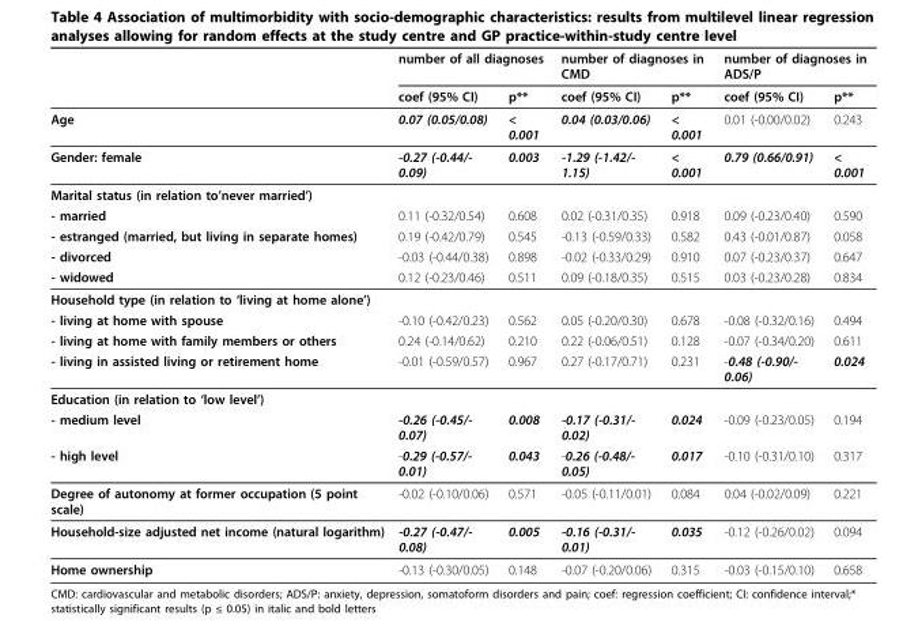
<table><thead><tr><td rowspan="2"></td><td colspan="2">number of all diagnoses</td><td colspan="2">number of diagnoses in CMD</td><td colspan="2">number of diagnoses in ADS/P</td></tr><tr><td>coef (95% CI)</td><td>p**</td><td>coef (95% CI)</td><td>p**</td><td>coef (95% CI)</td><td>p**</td></tr></thead><tbody><tr><td>Age</td><td>0.07 (0.05/0.08)</td><td>&lt; 0.001</td><td>0.04 (0.03/0.06)</td><td>&lt; 0.001</td><td>0.01 (-0.00/0.02)</td><td>0.243</td></tr><tr><td>Gender: female</td><td>-0.27 (-0.44/- 0.09)</td><td>0.003</td><td>-1.29 (-1.42/- 1.15)</td><td>&lt; 0.001</td><td>0.79 (0.66/0.91)</td><td>&lt; 0.001</td></tr><tr><td colspan="7">Marital status (in relation to’never married’)</td></tr><tr><td>- married</td><td>0.11 (-0.32/0.54)</td><td>0.608</td><td>0.02 (-0.31/0.35)</td><td>0.918</td><td>0.09 (-0.23/0.40)</td><td>0.590</td></tr><tr><td>- estranged (married, but living in separate homes)</td><td>0.19 (-0.42/0.79)</td><td>0.545</td><td>-0.13 (-0.59/0.33)</td><td>0.582</td><td>0.43 (-0.01/0.87)</td><td>0.058</td></tr><tr><td>- divorced</td><td>-0.03 (-0.44/0.38)</td><td>0.898</td><td>-0.02 (-0.33/0.29)</td><td>0.910</td><td>0.07 (-0.23/0.37)</td><td>0.647</td></tr><tr><td>- widowed</td><td>0.12 (-0.23/0.46)</td><td>0.511</td><td>0.09 (-0.18/0.35)</td><td>0.515</td><td>0.03 (-0.23/0.28)</td><td>0.834</td></tr><tr><td colspan="7">Household type (in relation to ‘living at home alone’)</td></tr><tr><td>- living at home with spouse</td><td>-0.10 (-0.42/0.23)</td><td>0.562</td><td>0.05 (-0.20/0.30)</td><td>0.678</td><td>-0.08 (-0.32/0.16)</td><td>0.494</td></tr><tr><td>- living at home with family members or others</td><td>0.24 (-0.14/0.62)</td><td>0.210</td><td>0.22 (-0.06/0.51)</td><td>0.128</td><td>-0.07 (-0.34/0.20)</td><td>0.611</td></tr><tr><td>- living in assisted living or retirement home</td><td>-0.01 (-0.59/0.57)</td><td>0.967</td><td>0.27 (-0.17/0.71)</td><td>0.231</td><td>-0.48 (-0.90/- 0.06)</td><td>0.024</td></tr><tr><td colspan="7">Education (in relation to ‘low level’)</td></tr><tr><td>- medium level</td><td>-0.26 (-0.45/- 0.07)</td><td>0.008</td><td>-0.17 (-0.31/- 0.02)</td><td>0.024</td><td>-0.09 (-0.23/0.05)</td><td>0.194</td></tr><tr><td>- high level</td><td>-0.29 (-0.57/- 0.01)</td><td>0.043</td><td>-0.26 (-0.48/- 0.05)</td><td>0.017</td><td>-0.10 (-0.31/0.10)</td><td>0.317</td></tr><tr><td>Degree of autonomy at former occupation (5 point scale)</td><td>-0.02 (-0.10/0.06)</td><td>0.571</td><td>-0.05 (-0.11/0.01)</td><td>0.084</td><td>0.04 (-0.02/0.09)</td><td>0.221</td></tr><tr><td>Household-size adjusted net income (natural logarithm)</td><td>-0.27 (-0.47/- 0.08)</td><td>0.005</td><td>-0.16 (-0.31/- 0.01)</td><td>0.035</td><td>-0.12 (-0.26/0.02)</td><td>0.094</td></tr><tr><td>Home ownership</td><td>-0.13 (-0.30/0.05)</td><td>0.148</td><td>-0.07 (-0.20/0.06)</td><td>0.315</td><td>-0.03 (-0.15/0.10)</td><td>0.658</td></tr></tbody></table>